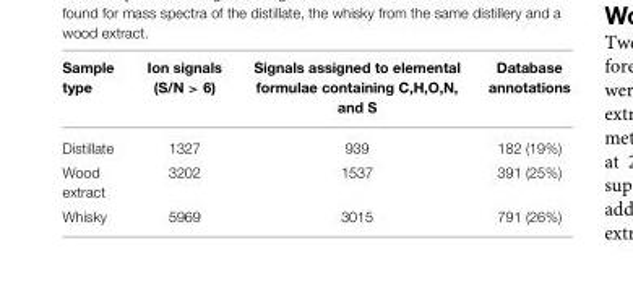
<table><thead><tr><td>Sample type</td><td>Ion signals (S/N &gt; 6)</td><td>Signals assigned to elemental formulae containing C,H,O,N, and S</td><td>Database annotations</td></tr></thead><tbody><tr><td>Distillate</td><td>1327</td><td>939</td><td>182 (19%)</td></tr><tr><td>Wood extract</td><td>3202</td><td>1537</td><td>391 (25%)</td></tr><tr><td>Whisky</td><td>5969</td><td>3015</td><td>791 (26%)</td></tr></tbody></table>